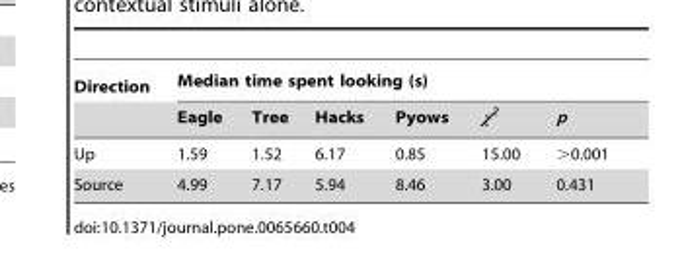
<table><thead><tr><td rowspan="2">Direction</td><td colspan="6">Median time spent looking (s)</td></tr><tr><td>Eagle</td><td>Tree</td><td>Hacks</td><td>Pyows</td><td>χ<sup>2</sup></td><td>p</td></tr></thead><tbody><tr><td>Up</td><td>1.59</td><td>1.52</td><td>6.17</td><td>0.85</td><td>15.00</td><td>&gt;0.001</td></tr><tr><td>Source</td><td>4.99</td><td>7.17</td><td>5.94</td><td>8.46</td><td>3.00</td><td>0.431</td></tr></tbody></table>